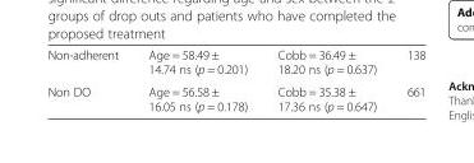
<table><tbody><tr><td>Non-adherent</td><td>Age = 58.49 ± 14.74 ns (p = 0.201)</td><td>Cobb = 36.49 ± 18.20 ns (p = 0.637)</td><td>138</td></tr><tr><td>Non DO</td><td>Age = 56.58 ± 16.05 ns (p = 0.178)</td><td>Cobb = 35.38 ± 17.36 ns (p = 0.647)</td><td>661</td></tr></tbody></table>